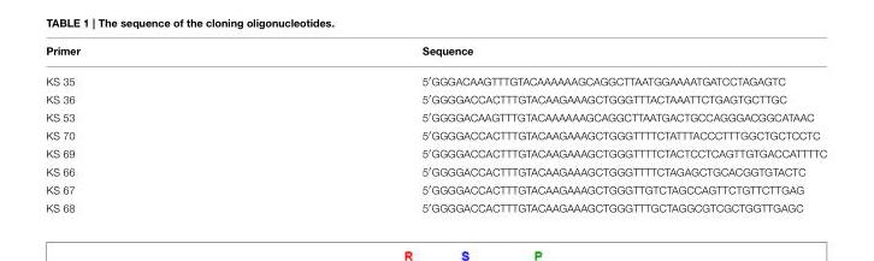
<table><thead><tr><td>Primer</td><td>Sequence</td></tr></thead><tbody><tr><td>KS 35</td><td>5′GGGACAAGTTTGTACAAAAAAGCAGGCTTAATGGAAAATGATCCTAGAGTC</td></tr><tr><td>KS 36</td><td>5′GGGGACCACTTTGTACAAGAAAGCTGGGTTTACTAAATTCTGAGTGCTTGC</td></tr><tr><td>KS 53</td><td>5′GGGGACAAGTTTGTACAAAAAAGCAGGCTTAATGACTGCCAGGGACGGCATAAC</td></tr><tr><td>KS 70</td><td>5′GGGGACCACTTTGTACAAGAAAGCTGGGTTTTCTATTTACCCTTTGGCTGCTCCTC</td></tr><tr><td>KS 69</td><td>5′GGGGACCACTTTGTACAAGAAAGCTGGGTTTTCTACTCCTCAGTTGTGACCATTTTC</td></tr><tr><td>KS 66</td><td>5′GGGGACCACTTTGTACAAGAAAGCTGGGTTTTCTAGAGCTGCACGGTGTACTC</td></tr><tr><td>KS 67</td><td>5′GGGGACCACTTTGTACAAGAAAGCTGGGTTGTCTAGCCAGTTCTGTTCTTGAG</td></tr><tr><td>KS 68</td><td>5′GGGGACCACTTTGTACAAGAAAGCTGGGTTTGCTAGGCGTCGCTGGTTGAGC</td></tr></tbody></table>